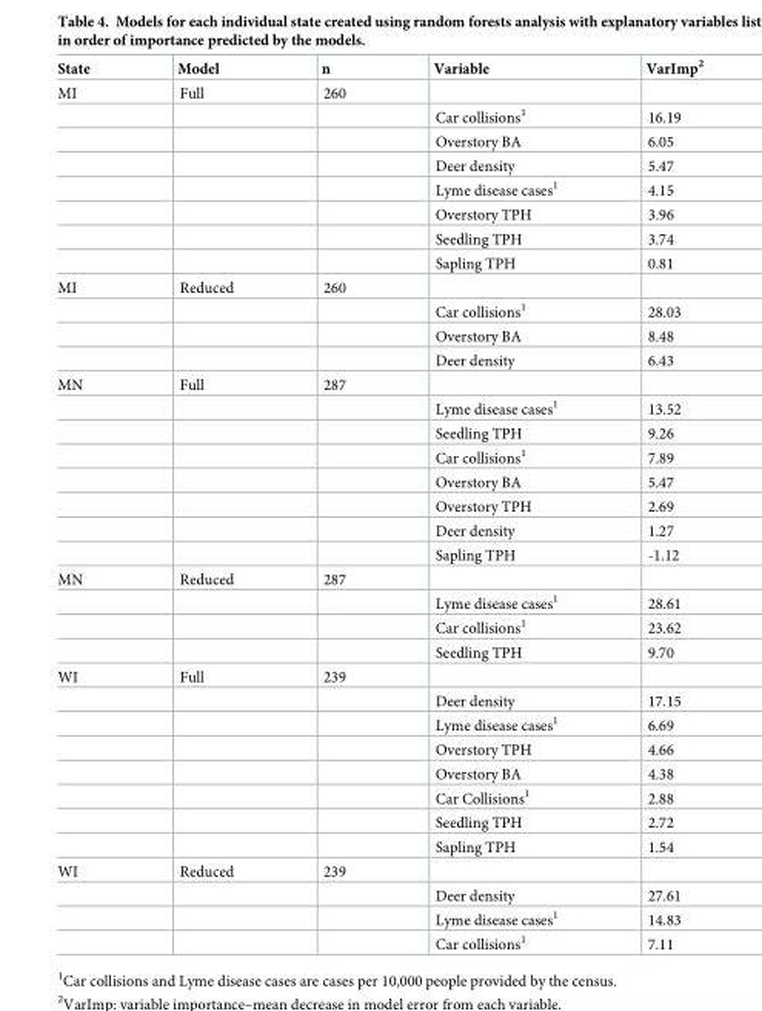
<table><thead><tr><td>State</td><td>Model</td><td>n</td><td>Variable</td><td>VarImp<sup>2</sup></td></tr></thead><tbody><tr><td rowspan="8">MI</td><td>Full</td><td>260</td><td></td><td></td></tr><tr><td></td><td></td><td>Car collisions<sup>1</sup></td><td>16.19</td></tr><tr><td></td><td></td><td>Overstory BA</td><td>6.05</td></tr><tr><td></td><td></td><td>Deer density</td><td>5.47</td></tr><tr><td></td><td></td><td>Lyme disease cases<sup>1</sup></td><td>4.15</td></tr><tr><td></td><td></td><td>Overstory TPH</td><td>3.96</td></tr><tr><td></td><td></td><td>Seedling TPH</td><td>3.74</td></tr><tr><td></td><td></td><td>Sapling TPH</td><td>0.81</td></tr><tr><td rowspan="4">MI</td><td>Reduced</td><td>260</td><td></td><td></td></tr><tr><td></td><td></td><td>Car collisions<sup>1</sup></td><td>28.03</td></tr><tr><td></td><td></td><td>Overstory BA</td><td>8.48</td></tr><tr><td></td><td></td><td>Deer density</td><td>6.43</td></tr><tr><td rowspan="8">MN</td><td>Full</td><td>287</td><td></td><td></td></tr><tr><td></td><td></td><td>Lyme disease cases<sup>1</sup></td><td>13.52</td></tr><tr><td></td><td></td><td>Seedling TPH</td><td>9.26</td></tr><tr><td></td><td></td><td>Car collisions<sup>1</sup></td><td>7.89</td></tr><tr><td></td><td></td><td>Overstory BA</td><td>5.47</td></tr><tr><td></td><td></td><td>Overstory TPH</td><td>2.69</td></tr><tr><td></td><td></td><td>Deer density</td><td>1.27</td></tr><tr><td></td><td></td><td>Sapling TPH</td><td>-1.12</td></tr><tr><td rowspan="4">MN</td><td>Reduced</td><td>287</td><td></td><td></td></tr><tr><td></td><td></td><td>Lyme disease cases<sup>1</sup></td><td>28.61</td></tr><tr><td></td><td></td><td>Car collisions<sup>1</sup></td><td>23.62</td></tr><tr><td></td><td></td><td>Seedling TPH</td><td>9.70</td></tr><tr><td rowspan="8">WI</td><td>Full</td><td>239</td><td></td><td></td></tr><tr><td></td><td></td><td>Deer density</td><td>17.15</td></tr><tr><td></td><td></td><td>Lyme disease cases<sup>1</sup></td><td>6.69</td></tr><tr><td></td><td></td><td>Overstory TPH</td><td>4.66</td></tr><tr><td></td><td></td><td>Overstory BA</td><td>4.38</td></tr><tr><td></td><td></td><td>Car Collisions<sup>1</sup></td><td>2.88</td></tr><tr><td></td><td></td><td>Seedling TPH</td><td>2.72</td></tr><tr><td></td><td></td><td>Sapling TPH</td><td>1.54</td></tr><tr><td rowspan="4">WI</td><td>Reduced</td><td>239</td><td></td><td></td></tr><tr><td></td><td></td><td>Deer density</td><td>27.61</td></tr><tr><td></td><td></td><td>Lyme disease cases<sup>1</sup></td><td>14.83</td></tr><tr><td></td><td></td><td>Car collisions<sup>1</sup></td><td>7.11</td></tr></tbody></table>